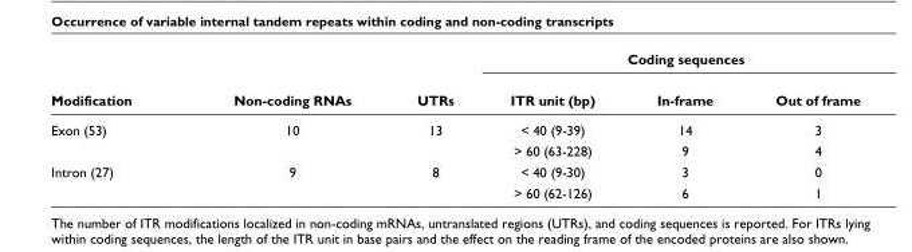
<table><thead><tr><td rowspan="2">Modification</td><td rowspan="2">Non-coding RNAs</td><td rowspan="2">UTRs</td><td colspan="3">Coding sequences</td></tr><tr><td>ITR unit (bp)</td><td>In-frame</td><td>Out of frame</td></tr></thead><tbody><tr><td rowspan="2">Exon (53)</td><td>10</td><td>13</td><td>&lt; 40 (9-39)</td><td>14</td><td>3</td></tr><tr><td></td><td></td><td>&gt; 60 (63-228)</td><td>9</td><td>4</td></tr><tr><td rowspan="2">Intron (27)</td><td>9</td><td>8</td><td>&lt; 40 (9-30)</td><td>3</td><td>0</td></tr><tr><td></td><td></td><td>&gt; 60 (62-126)</td><td>6</td><td>1</td></tr></tbody></table>